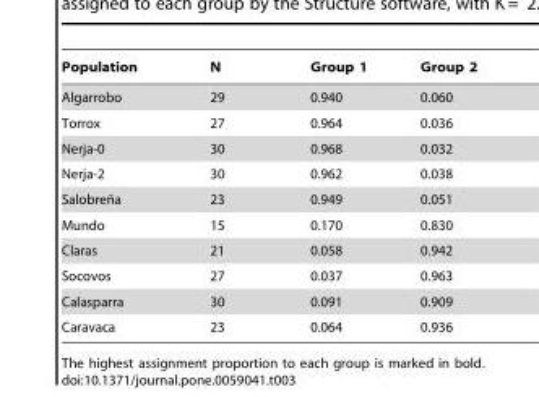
<table><thead><tr><td>Population</td><td>N</td><td>Group 1</td><td>Group 2</td></tr></thead><tbody><tr><td>Algarrobo</td><td>29</td><td>0.940</td><td>0.060</td></tr><tr><td>Torrox</td><td>27</td><td>0.964</td><td>0.036</td></tr><tr><td>Nerja-0</td><td>30</td><td>0.968</td><td>0.032</td></tr><tr><td>Nerja-2</td><td>30</td><td>0.962</td><td>0.038</td></tr><tr><td>Salobren˜a</td><td>23</td><td>0.949</td><td>0.051</td></tr><tr><td>Mundo</td><td>15</td><td>0.170</td><td>0.830</td></tr><tr><td>Claras</td><td>21</td><td>0.058</td><td>0.942</td></tr><tr><td>Socovos</td><td>27</td><td>0.037</td><td>0.963</td></tr><tr><td>Calasparra</td><td>30</td><td>0.091</td><td>0.909</td></tr><tr><td>Caravaca</td><td>23</td><td>0.064</td><td>0.936</td></tr></tbody></table>